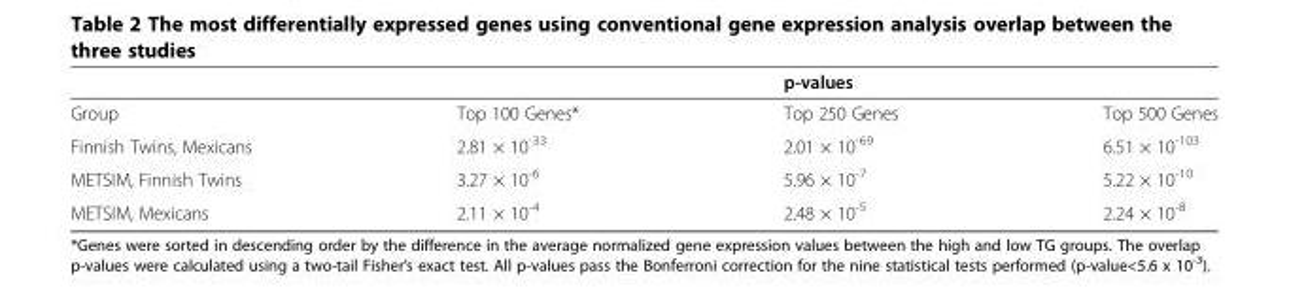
<table><thead><tr><td></td><td></td><td>p-values</td><td></td></tr></thead><tbody><tr><td>Group</td><td>Top 100 Genes*</td><td>Top 250 Genes</td><td>Top 500 Genes</td></tr><tr><td>Finnish Twins, Mexicans</td><td>2.81 × 10<sup>-33</sup></td><td>2.01 × 10<sup>-69</sup></td><td>6.51 × 10<sup>-103</sup></td></tr><tr><td>METSIM, Finnish Twins</td><td>3.27 × 10<sup>-6</sup></td><td>5.96 × 10<sup>-7</sup></td><td>5.22 × 10<sup>-10</sup></td></tr><tr><td>METSIM, Mexicans</td><td>2.11 × 10<sup>-4</sup></td><td>2.48 × 10<sup>-5</sup></td><td>2.24 × 10<sup>-8</sup></td></tr></tbody></table>